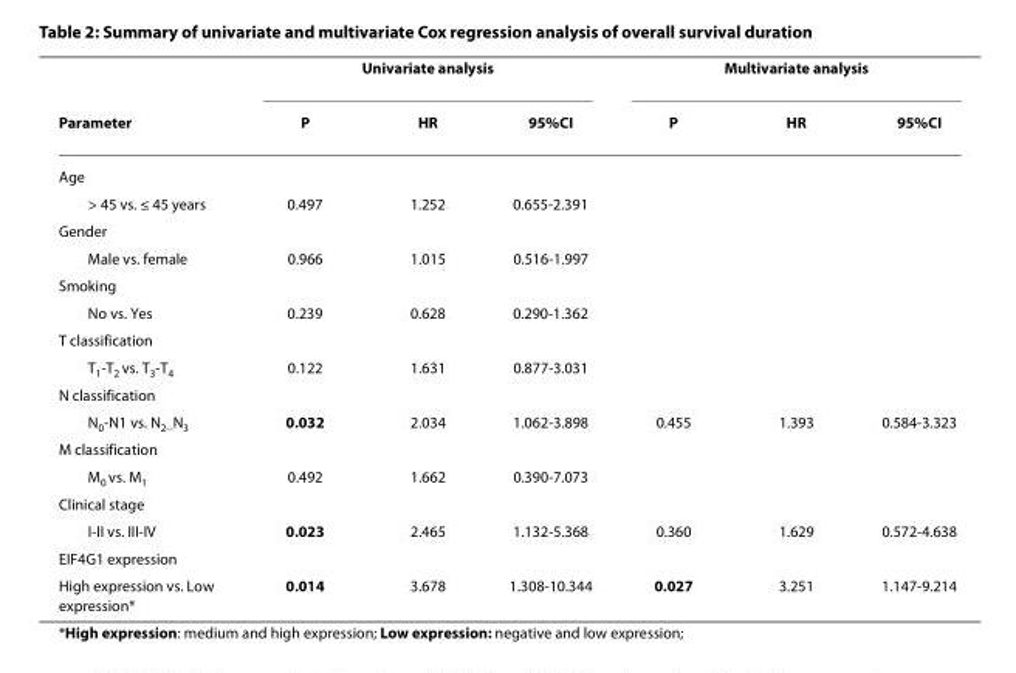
<table><thead><tr><td rowspan="2">Parameter</td><td colspan="3">Univariate analysis</td><td colspan="3">Multivariate analysis</td></tr><tr><td>P</td><td>HR</td><td>95%CI</td><td>P</td><td>HR</td><td>95%CI</td></tr></thead><tbody><tr><td colspan="7">Age</td></tr><tr><td>&gt; 45 vs. ≤ 45 years</td><td>0.497</td><td>1.252</td><td>0.655-2.391</td><td></td><td></td><td></td></tr><tr><td colspan="7">Gender</td></tr><tr><td>Male vs. female</td><td>0.966</td><td>1.015</td><td>0.516-1.997</td><td></td><td></td><td></td></tr><tr><td colspan="7">Smoking</td></tr><tr><td>No vs. Yes</td><td>0.239</td><td>0.628</td><td>0.290-1.362</td><td></td><td></td><td></td></tr><tr><td colspan="7">T classification</td></tr><tr><td>T<sub>1</sub>-T<sub>2</sub> vs. T<sub>3</sub>-T<sub>4</sub></td><td>0.122</td><td>1.631</td><td>0.877-3.031</td><td></td><td></td><td></td></tr><tr><td colspan="7">N classification</td></tr><tr><td>N<sub>0</sub>-N1 vs. N<sub>2--</sub>N<sub>3</sub></td><td>0.032</td><td>2.034</td><td>1.062-3.898</td><td>0.455</td><td>1.393</td><td>0.584-3.323</td></tr><tr><td colspan="7">M classification</td></tr><tr><td>M<sub>0</sub> vs. M<sub>1</sub></td><td>0.492</td><td>1.662</td><td>0.390-7.073</td><td></td><td></td><td></td></tr><tr><td colspan="7">Clinical stage</td></tr><tr><td>I-II vs. III-IV</td><td>0.023</td><td>2.465</td><td>1.132-5.368</td><td>0.360</td><td>1.629</td><td>0.572-4.638</td></tr><tr><td colspan="7">EIF4G1 expression</td></tr><tr><td>High expression vs. Low expression*</td><td>0.014</td><td>3.678</td><td>1.308-10.344</td><td>0.027</td><td>3.251</td><td>1.147-9.214</td></tr></tbody></table>